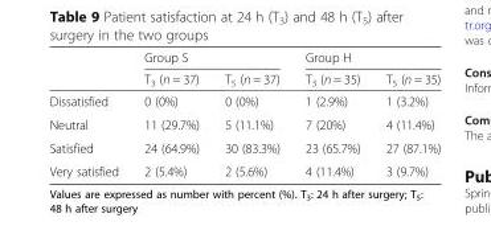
<table><thead><tr><td rowspan="2"></td><td colspan="2">Group S</td><td colspan="2">Group H</td></tr><tr><td>T<sub>3</sub> (n = 37)</td><td>T<sub>5</sub> (n = 37)</td><td>T<sub>3</sub> (n = 35)</td><td>T<sub>5</sub> (n = 35)</td></tr></thead><tbody><tr><td>Dissatisfied</td><td>0 (0%)</td><td>0 (0%)</td><td>1 (2.9%)</td><td>1 (3.2%)</td></tr><tr><td>Neutral</td><td>11 (29.7%)</td><td>5 (11.1%)</td><td>7 (20%)</td><td>4 (11.4%)</td></tr><tr><td>Satisfied</td><td>24 (64.9%)</td><td>30 (83.3%)</td><td>23 (65.7%)</td><td>27 (87.1%)</td></tr><tr><td>Very satisfied</td><td>2 (5.4%)</td><td>2 (5.6%)</td><td>4 (11.4%)</td><td>3 (9.7%)</td></tr></tbody></table>